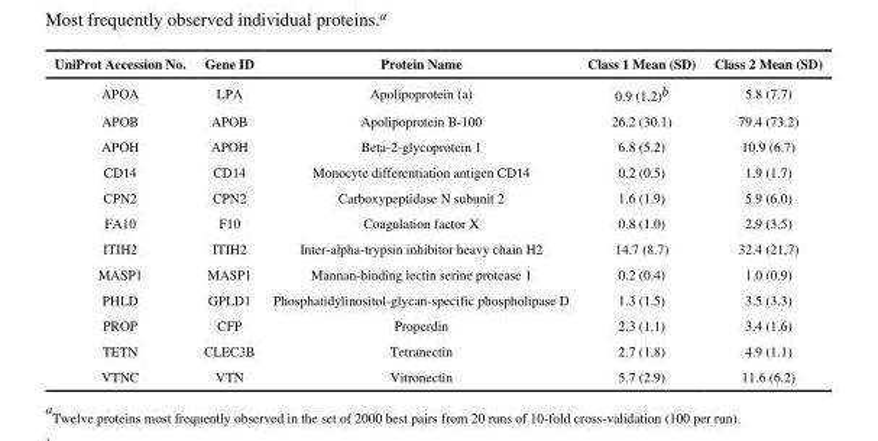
<table><thead><tr><td>UniProt Accession No.</td><td>Gene ID</td><td>Protein Name</td><td>Class 1 Mean (SD)</td><td>Class 2 Mean (SD)</td></tr></thead><tbody><tr><td>APOA</td><td>LPA</td><td>Apolipoprotein (a)</td><td>0.9 (1.2)<sup>b</sup></td><td>5.8 (7.7)</td></tr><tr><td>APOB</td><td>APOB</td><td>Apolipoprotein B-100</td><td>26.2 (30.1)</td><td>79.4 (73.2)</td></tr><tr><td>APOH</td><td>APOH</td><td>Beta-2-glycoprotein 1</td><td>6.8 (5.2)</td><td>10.9 (6.7)</td></tr><tr><td>CD14</td><td>CD14</td><td>Monocyte differentiation antigen CD14</td><td>0.2 (0.5)</td><td>1.9 (1.7)</td></tr><tr><td>CPN2</td><td>CPN2</td><td>Carboxypeptidase N subunit 2</td><td>1.6 (1.9)</td><td>5.9 (6.0)</td></tr><tr><td>FA10</td><td>F10</td><td>Coagulation factor X</td><td>0.8 (1.0)</td><td>2,9 (3,5)</td></tr><tr><td>ITIH2</td><td>ITIH2</td><td>Inter-alpha-trypsin inhibitor heavy chain H2</td><td>14.7 (8.7)</td><td>32.4 (21,7)</td></tr><tr><td>MASP1</td><td>MASP1</td><td>Mannan-binding lectin serine protease 1</td><td>0.2 (0.4)</td><td>1.0 (0.9)</td></tr><tr><td>PHLD</td><td>GPLD1</td><td>Phosphatidylinositol-glycan-specific phospholipase D</td><td>1.3 (1.5)</td><td>3.5 (3.3)</td></tr><tr><td>PROP</td><td>CFP</td><td>Properdin</td><td>2.3 (1.1)</td><td>3.4 (1.6)</td></tr><tr><td>TETN</td><td>CLEC3B</td><td>Tetranectin</td><td>2.7 (1.8)</td><td>4.9 (1.1)</td></tr><tr><td>VTNC</td><td>VTN</td><td>Vitronectin</td><td>5.7 (2.9)</td><td>11.6 (6.2)</td></tr></tbody></table>